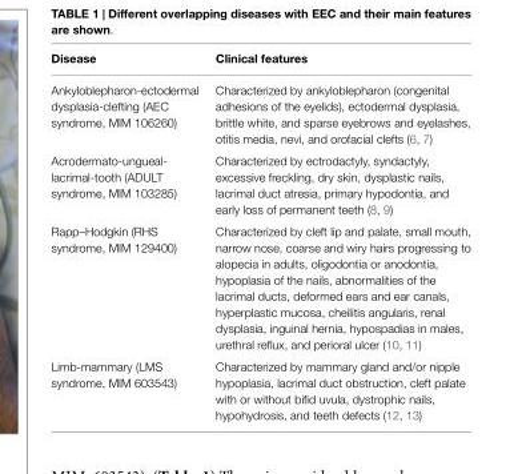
<table><thead><tr><td>Disease</td><td>Clinical features</td></tr></thead><tbody><tr><td>Ankyloblepharon-ectodermal dysplasia-clefting (AEC syndrome, MIM 106260)</td><td>Characterized by ankyloblepharon (congenital adhesions of the eyelids), ectodermal dysplasia, brittle white, and sparse eyebrows and eyelashes, otitis media, nevi, and orofacial clefts (6, 7)</td></tr><tr><td>Acrodermato-ungueal- lacrimal-tooth (ADULT syndrome, MIM 103285)</td><td>Characterized by ectrodactyly, syndactyly, excessive freckling, dry skin, dysplastic nails, lacrimal duct atresia, primary hypodontia, and early loss of permanent teeth (8, 9)</td></tr><tr><td>Rapp–Hodgkin (RHS syndrome, MIM 129400)</td><td>Characterized by cleft lip and palate, small mouth, narrow nose, coarse and wiry hairs progressing to alopecia in adults, oligodontia or anodontia, hypoplasia of the nails, abnormalities of the lacrimal ducts, deformed ears and ear canals, hyperplastic mucosa, cheilitis angularis, renal dysplasia, inguinal hernia, hypospadias in males, urethral reflux, and perioral ulcer (10, 11)</td></tr><tr><td>Limb-mammary (LMS syndrome, MIM 603543)</td><td>Characterized by mammary gland and/or nipple hypoplasia, lacrimal duct obstruction, cleft palate with or without bifid uvula, dystrophic nails, hypohydrosis, and teeth defects (12, 13)</td></tr></tbody></table>